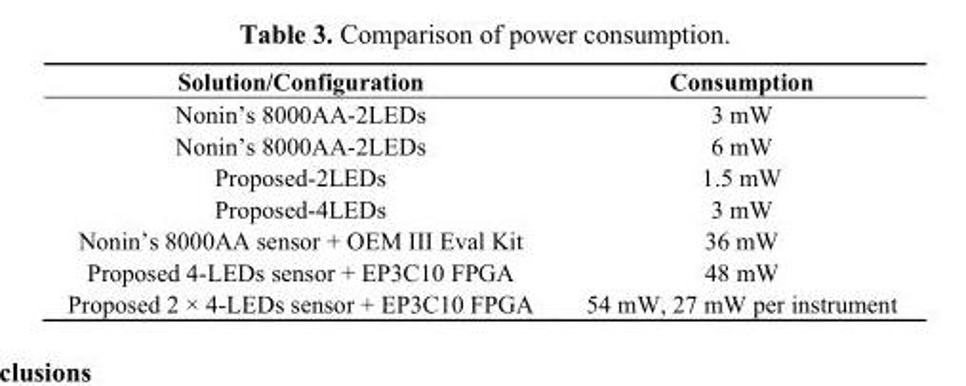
<table><thead><tr><td>Solution/Configuration</td><td>Consumption</td></tr></thead><tbody><tr><td>Nonin’s 8000AA-2LEDs</td><td>3 mW</td></tr><tr><td>Nonin’s 8000AA-2LEDs</td><td>6 mW</td></tr><tr><td>Proposed-2LEDs</td><td>1.5 mW</td></tr><tr><td>Proposed-4LEDs</td><td>3 mW</td></tr><tr><td>Nonin’s 8000AA sensor + OEM III Eval Kit</td><td>36 mW</td></tr><tr><td>Proposed 4-LEDs sensor + EP3C10 FPGA</td><td>48 mW</td></tr><tr><td>Proposed 2 × 4-LEDs sensor + EP3C10 FPGA</td><td>54 mW, 27 mW per instrument</td></tr></tbody></table>